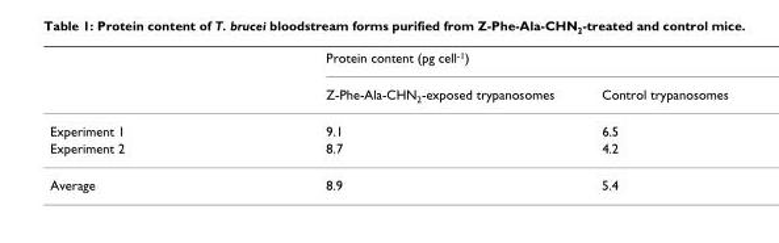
<table><thead><tr><td rowspan="2"></td><td colspan="2">Protein content (pg cell<sup>-1</sup>)</td></tr><tr><td>Z-Phe-Ala-CHN<sub>2</sub>-exposed trypanosomes</td><td>Control trypanosomes</td></tr></thead><tbody><tr><td>Experiment 1</td><td>9.1</td><td>6.5</td></tr><tr><td>Experiment 2</td><td>8.7</td><td>4.2</td></tr><tr><td>Average</td><td>8.9</td><td>5.4</td></tr></tbody></table>